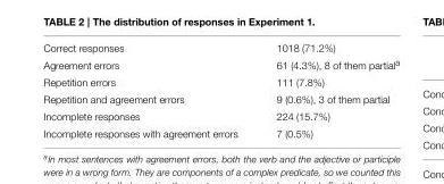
<table><tbody><tr><td>Correct responses</td><td>1018 (71.2%)</td></tr><tr><td>Agreement errors</td><td>61 (4.3%), 8 of them partial<sup>a</sup></td></tr><tr><td>Repetition errors</td><td>111 (7.8%)</td></tr><tr><td>Repetition and agreement errors</td><td>9 (0.6%), 3 of them partial</td></tr><tr><td>Incomplete responses</td><td>224 (15.7%)</td></tr><tr><td>Incomplete responses with agreement errors</td><td>7 (0.5%)</td></tr></tbody></table>